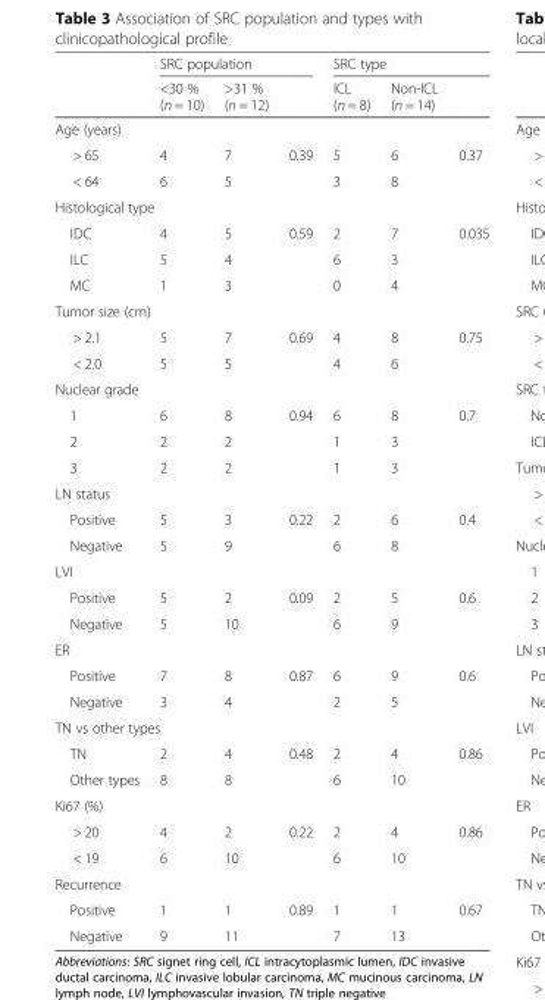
<table><thead><tr><td rowspan="2"></td><td colspan="3">SRC population</td><td colspan="3">SRC type</td></tr><tr><td>&lt;30 % (n = 10)</td><td>&gt;31 % (n = 12)</td><td></td><td>ICL (n = 8)</td><td>Non-ICL (n = 14)</td><td></td></tr></thead><tbody><tr><td colspan="7">Age (years)</td></tr><tr><td>&gt; 65</td><td>4</td><td>7</td><td>0.39</td><td>5</td><td>6</td><td>0.37</td></tr><tr><td>&lt; 64</td><td>6</td><td>5</td><td></td><td>3</td><td>8</td><td></td></tr><tr><td colspan="7">Histological type</td></tr><tr><td>IDC</td><td>4</td><td>5</td><td>0.59</td><td>2</td><td>7</td><td>0.035</td></tr><tr><td>ILC</td><td>5</td><td>4</td><td></td><td>6</td><td>3</td><td></td></tr><tr><td>MC</td><td>1</td><td>3</td><td></td><td>0</td><td>4</td><td></td></tr><tr><td colspan="7">Tumor size (cm)</td></tr><tr><td>&gt; 2.1</td><td>5</td><td>7</td><td>0.69</td><td>4</td><td>8</td><td>0.75</td></tr><tr><td>&lt; 2.0</td><td>5</td><td>5</td><td></td><td>4</td><td>6</td><td></td></tr><tr><td colspan="7">Nuclear grade</td></tr><tr><td>1</td><td>6</td><td>8</td><td>0.94</td><td>6</td><td>8</td><td>0.7</td></tr><tr><td>2</td><td>2</td><td>2</td><td></td><td>1</td><td>3</td><td></td></tr><tr><td>3</td><td>2</td><td>2</td><td></td><td>1</td><td>3</td><td></td></tr><tr><td colspan="7">LN status</td></tr><tr><td>Positive</td><td>5</td><td>3</td><td>0.22</td><td>2</td><td>6</td><td>0.4</td></tr><tr><td>Negative</td><td>5</td><td>9</td><td></td><td>6</td><td>8</td><td></td></tr><tr><td colspan="7">LVI</td></tr><tr><td>Positive</td><td>5</td><td>2</td><td>0.09</td><td>2</td><td>5</td><td>0.6</td></tr><tr><td>Negative</td><td>5</td><td>10</td><td></td><td>6</td><td>9</td><td></td></tr><tr><td colspan="7">ER</td></tr><tr><td>Positive</td><td>7</td><td>8</td><td>0.87</td><td>6</td><td>9</td><td>0.6</td></tr><tr><td>Negative</td><td>3</td><td>4</td><td></td><td>2</td><td>5</td><td></td></tr><tr><td colspan="7">TN vs other types</td></tr><tr><td>TN</td><td>2</td><td>4</td><td>0.48</td><td>2</td><td>4</td><td>0.86</td></tr><tr><td>Other types</td><td>8</td><td>8</td><td></td><td>6</td><td>10</td><td></td></tr><tr><td colspan="7">Ki67 (%)</td></tr><tr><td>&gt; 20</td><td>4</td><td>2</td><td>0.22</td><td>2</td><td>4</td><td>0.86</td></tr><tr><td>&lt; 19</td><td>6</td><td>10</td><td></td><td>6</td><td>10</td><td></td></tr><tr><td colspan="7">Recurrence</td></tr><tr><td>Positive</td><td>1</td><td>1</td><td>0.89</td><td>1</td><td>1</td><td>0.67</td></tr><tr><td>Negative</td><td>9</td><td>11</td><td></td><td>7</td><td>13</td><td></td></tr></tbody></table>